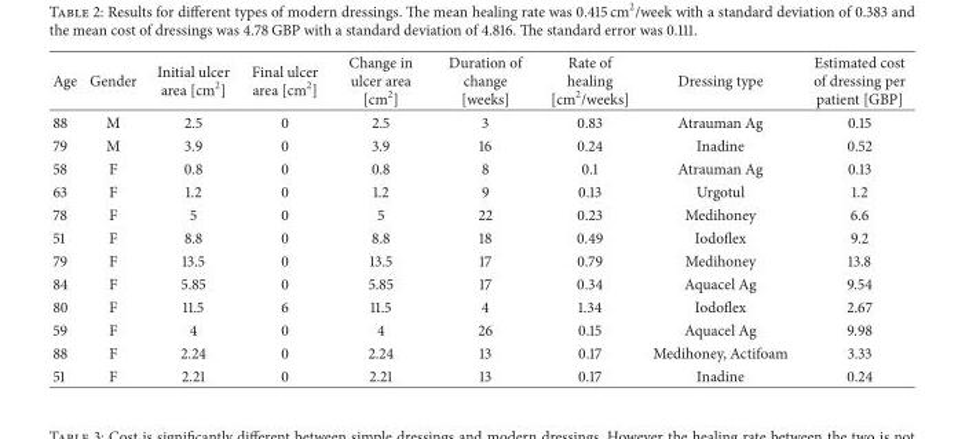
<table><thead><tr><td>Age</td><td>Gender</td><td>Initial ulcer area [cm<sup>2</sup>]</td><td>Final ulcer area [cm<sup>2</sup>]</td><td>Change in ulcer area [cm<sup>2</sup>]</td><td>Duration of change [weeks]</td><td>Rate of healing [cm<sup>2</sup>/weeks]</td><td>Dressing type</td><td>Estimated cost of dressing per patient [GBP]</td></tr></thead><tbody><tr><td>88</td><td>M</td><td>2.5</td><td>0</td><td>2.5</td><td>3</td><td>0.83</td><td>Atrauman Ag</td><td>0.15</td></tr><tr><td>79</td><td>M</td><td>3.9</td><td>0</td><td>3.9</td><td>16</td><td>0.24</td><td>Inadine</td><td>0.52</td></tr><tr><td>58</td><td>F</td><td>0.8</td><td>0</td><td>0.8</td><td>8</td><td>0.1</td><td>Atrauman Ag</td><td>0.13</td></tr><tr><td>63</td><td>F</td><td>1.2</td><td>0</td><td>1.2</td><td>9</td><td>0.13</td><td>Urgotul</td><td>1.2</td></tr><tr><td>78</td><td>F</td><td>5</td><td>0</td><td>5</td><td>22</td><td>0.23</td><td>Medihoney</td><td>6.6</td></tr><tr><td>51</td><td>F</td><td>8.8</td><td>0</td><td>8.8</td><td>18</td><td>0.49</td><td>Iodoflex</td><td>9.2</td></tr><tr><td>79</td><td>F</td><td>13.5</td><td>0</td><td>13.5</td><td>17</td><td>0.79</td><td>Medihoney</td><td>13.8</td></tr><tr><td>84</td><td>F</td><td>5.85</td><td>0</td><td>5.85</td><td>17</td><td>0.34</td><td>Aquacel Ag</td><td>9.54</td></tr><tr><td>80</td><td>F</td><td>11.5</td><td>6</td><td>11.5</td><td>4</td><td>1.34</td><td>Iodoflex</td><td>2.67</td></tr><tr><td>59</td><td>F</td><td>4</td><td>0</td><td>4</td><td>26</td><td>0.15</td><td>Aquacel Ag</td><td>9.98</td></tr><tr><td>88</td><td>F</td><td>2.24</td><td>0</td><td>2.24</td><td>13</td><td>0.17</td><td>Medihoney, Actifoam</td><td>3.33</td></tr><tr><td>51</td><td>F</td><td>2.21</td><td>0</td><td>2.21</td><td>13</td><td>0.17</td><td>Inadine</td><td>0.24</td></tr></tbody></table>